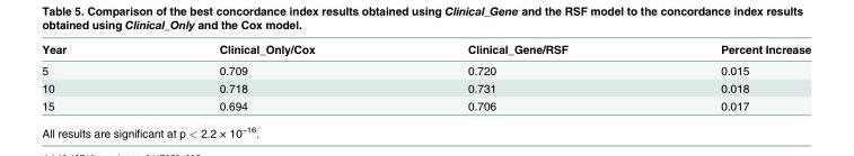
<table><thead><tr><td>Year</td><td>Clinical_Only/Cox</td><td>Clinical_Gene/RSF</td><td>Percent Increase</td></tr></thead><tbody><tr><td>5</td><td>0.709</td><td>0.720</td><td>0.015</td></tr><tr><td>10</td><td>0.718</td><td>0.731</td><td>0.018</td></tr><tr><td>15</td><td>0.694</td><td>0.706</td><td>0.017</td></tr></tbody></table>